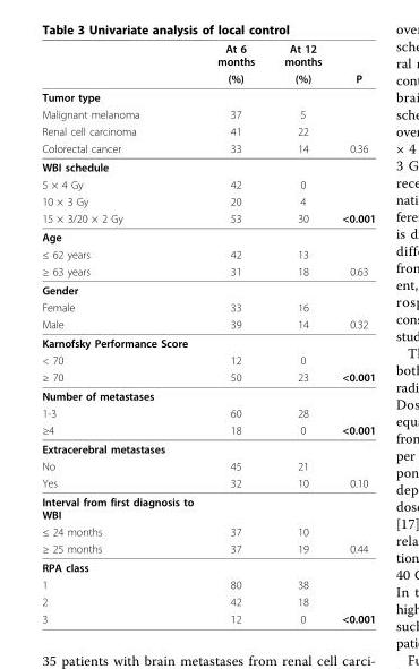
<table><thead><tr><td rowspan="2"></td><td rowspan="2">At 6 months (%)</td><td rowspan="2">At 12 months (%)</td><td rowspan="2">P</td></tr><tr></tr></thead><tbody><tr><td colspan="4">Tumor type</td></tr><tr><td>Malignant melanoma</td><td>37</td><td>5</td><td></td></tr><tr><td>Renal cell carcinoma</td><td>41</td><td>22</td><td></td></tr><tr><td>Colorectal cancer</td><td>33</td><td>14</td><td>0.36</td></tr><tr><td colspan="4">WBI schedule</td></tr><tr><td>5 × 4 Gy</td><td>42</td><td>0</td><td></td></tr><tr><td>10 × 3 Gy</td><td>20</td><td>4</td><td></td></tr><tr><td>15 × 3/20 × 2 Gy</td><td>53</td><td>30</td><td>&lt;0.001</td></tr><tr><td colspan="4">Age</td></tr><tr><td>≤ 62 years</td><td>42</td><td>13</td><td></td></tr><tr><td>≥ 63 years</td><td>31</td><td>18</td><td>0.63</td></tr><tr><td colspan="4">Gender</td></tr><tr><td>Female</td><td>33</td><td>16</td><td></td></tr><tr><td>Male</td><td>39</td><td>14</td><td>0.32</td></tr><tr><td colspan="4">Karnofsky Performance Score</td></tr><tr><td>&lt; 70</td><td>12</td><td>0</td><td></td></tr><tr><td>≥ 70</td><td>50</td><td>23</td><td>&lt;0.001</td></tr><tr><td colspan="4">Number of metastases</td></tr><tr><td>1-3</td><td>60</td><td>28</td><td></td></tr><tr><td>≥4</td><td>18</td><td>0</td><td>&lt;0.001</td></tr><tr><td colspan="4">Extracerebral metastases</td></tr><tr><td>No</td><td>45</td><td>21</td><td></td></tr><tr><td>Yes</td><td>32</td><td>10</td><td>0.10</td></tr><tr><td colspan="4">Interval from first diagnosis to WBI</td></tr><tr><td>≤ 24 months</td><td>37</td><td>10</td><td></td></tr><tr><td>≥ 25 months</td><td>37</td><td>19</td><td>0.44</td></tr><tr><td colspan="4">RPA class</td></tr><tr><td>1</td><td>80</td><td>38</td><td></td></tr><tr><td>2</td><td>42</td><td>18</td><td></td></tr><tr><td>3</td><td>12</td><td>0</td><td>&lt;0.001</td></tr></tbody></table>